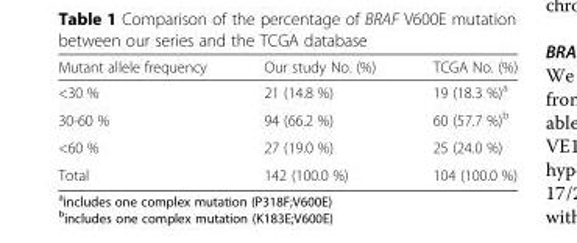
<table><thead><tr><td>Mutant allele frequency</td><td>Our study No. (%)</td><td>TCGA No. (%)</td></tr></thead><tbody><tr><td>&lt;30 %</td><td>21 (14.8 %)</td><td>19 (18.3 %)<sup>a</sup></td></tr><tr><td>30-60 %</td><td>94 (66.2 %)</td><td>60 (57.7 %)<sup>b</sup></td></tr><tr><td>&lt;60 %</td><td>27 (19.0 %)</td><td>25 (24.0 %)</td></tr><tr><td>Total</td><td>142 (100.0 %)</td><td>104 (100.0 %)</td></tr></tbody></table>